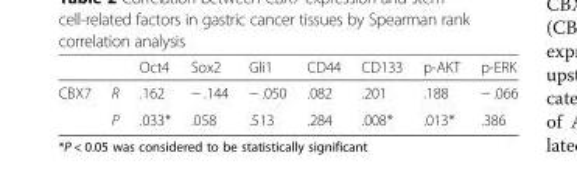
<table><thead><tr><td></td><td></td><td>Oct4</td><td>Sox2</td><td>Gli1</td><td>CD44</td><td>CD133</td><td>p-AKT</td><td>p-ERK</td></tr></thead><tbody><tr><td rowspan="2">CBX7</td><td>R</td><td>.162</td><td>− .144</td><td>− .050</td><td>.082</td><td>.201</td><td>.188</td><td>− .066</td></tr><tr><td>P</td><td>.033*</td><td>.058</td><td>.513</td><td>.284</td><td>.008*</td><td>.013*</td><td>.386</td></tr></tbody></table>